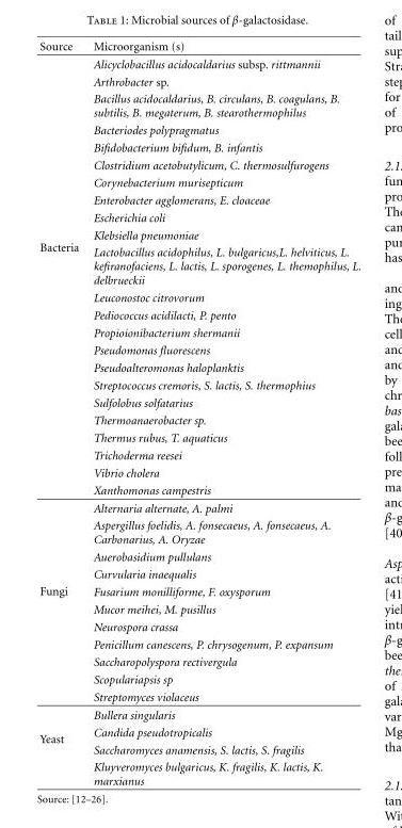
<table><thead><tr><td>Source</td><td>Microorganism (s)</td></tr></thead><tbody><tr><td rowspan="23">Bacteria</td><td>Alicyclobacillus acidocaldarius subsp. rittmannii</td></tr><tr><td>Arthrobacter sp.</td></tr><tr><td>Bacillus acidocaldarius, B. circulans, B. coagulans, B. subtilis, B. megaterum, B. stearothermophilus</td></tr><tr><td>Bacteriodes polypragmatus</td></tr><tr><td>Bifidobacterium bifidum, B. infantis</td></tr><tr><td>Clostridium acetobutylicum, C. thermosulfurogens</td></tr><tr><td>Corynebacterium murisepticum</td></tr><tr><td>Enterobacter agglomerans, E. cloaceae</td></tr><tr><td>Escherichia coli</td></tr><tr><td>Klebsiella pneumoniae</td></tr><tr><td>Lactobacillus acidophilus, L. bulgaricus,L. helviticus, L. kefiranofaciens, L. lactis, L. sporogenes, L. themophilus, L. delbrueckii</td></tr><tr><td>Leuconostoc citrovorum</td></tr><tr><td>Pediococcus acidilacti, P. pento</td></tr><tr><td>Propioionibacterium shermanii</td></tr><tr><td>Pseudomonas fluorescens</td></tr><tr><td>Pseudoalteromonas haloplanktis</td></tr><tr><td>Streptococcus cremoris, S. lactis, S. thermophius</td></tr><tr><td>Sulfolobus solfatarius</td></tr><tr><td>Thermoanaerobacter sp.</td></tr><tr><td>Thermus rubus, T. aquaticus</td></tr><tr><td>Trichoderma reesei</td></tr><tr><td>Vibrio cholera</td></tr><tr><td>Xanthomonas campestris</td></tr><tr><td rowspan="11">Fungi</td><td>Alternaria alternate, A. palmi</td></tr><tr><td>Aspergillus foelidis, A. fonsecaeus, A. fonsecaeus, A. Carbonarius, A. Oryzae</td></tr><tr><td>Auerobasidium pullulans</td></tr><tr><td>Curvularia inaequalis</td></tr><tr><td>Fusarium monilliforme, F. oxysporum</td></tr><tr><td>Mucor meihei, M. pusillus</td></tr><tr><td>Neurospora crassa</td></tr><tr><td>Penicillum canescens, P. chrysogenum, P. expansum</td></tr><tr><td>Saccharopolyspora rectivergula</td></tr><tr><td>Scopulariapsis sp</td></tr><tr><td>Streptomyces violaceus</td></tr><tr><td rowspan="4">Yeast</td><td>Bullera singularis</td></tr><tr><td>Candida pseudotropicalis</td></tr><tr><td>Saccharomyces anamensis, S. lactis, S. fragilis</td></tr><tr><td>Kluyveromyces bulgaricus, K. fragilis, K. lactis, K. marxianus</td></tr></tbody></table>